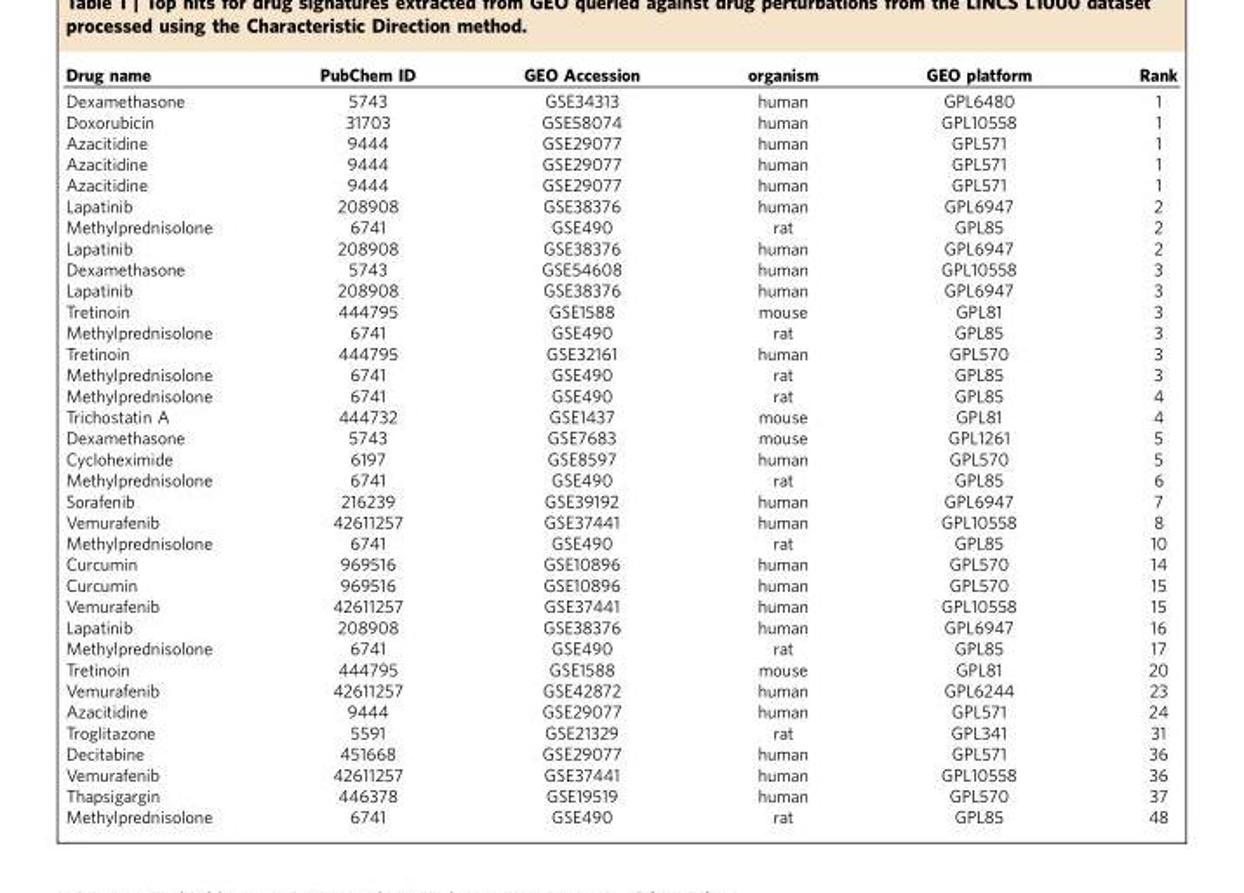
<table><thead><tr><td>Drug name</td><td>PubChem ID</td><td>GEO Accession</td><td>organism</td><td>GEO platform</td><td>Rank</td></tr></thead><tbody><tr><td>Dexamethasone</td><td>5743</td><td>GSE34313</td><td>human</td><td>GPL6480</td><td>1</td></tr><tr><td>Doxorubicin</td><td>31703</td><td>GSE58074</td><td>human</td><td>GPL10558</td><td>1</td></tr><tr><td>Azacitidine</td><td>9444</td><td>GSE29077</td><td>human</td><td>GPL571</td><td>1</td></tr><tr><td>Azacitidine</td><td>9444</td><td>GSE29077</td><td>human</td><td>GPL571</td><td>1</td></tr><tr><td>Azacitidine</td><td>9444</td><td>GSE29077</td><td>human</td><td>GPL571</td><td>1</td></tr><tr><td>Lapatinib</td><td>208908</td><td>GSE38376</td><td>human</td><td>GPL6947</td><td>2</td></tr><tr><td>Methylprednisolone</td><td>6741</td><td>GSE490</td><td>rat</td><td>GPL85</td><td>2</td></tr><tr><td>Lapatinib</td><td>208908</td><td>GSE38376</td><td>human</td><td>GPL6947</td><td>2</td></tr><tr><td>Dexamethasone</td><td>5743</td><td>GSE54608</td><td>human</td><td>GPL10558</td><td>3</td></tr><tr><td>Lapatinib</td><td>208908</td><td>GSE38376</td><td>human</td><td>GPL6947</td><td>3</td></tr><tr><td>Tretinoin</td><td>444795</td><td>GSE1588</td><td>mouse</td><td>GPL81</td><td>3</td></tr><tr><td>Methylprednisolone</td><td>6741</td><td>GSE490</td><td>rat</td><td>GPL85</td><td>3</td></tr><tr><td>Tretinoin</td><td>444795</td><td>GSE32161</td><td>human</td><td>GPL570</td><td>3</td></tr><tr><td>Methylprednisolone</td><td>6741</td><td>GSE490</td><td>rat</td><td>GPL85</td><td>3</td></tr><tr><td>Methylprednisolone</td><td>6741</td><td>GSE490</td><td>rat</td><td>GPL85</td><td>4</td></tr><tr><td>Trichostatin A</td><td>444732</td><td>GSE1437</td><td>mouse</td><td>GPL81</td><td>4</td></tr><tr><td>Dexamethasone</td><td>5743</td><td>GSE7683</td><td>mouse</td><td>GPL1261</td><td>5</td></tr><tr><td>Cycloheximide</td><td>6197</td><td>GSE8597</td><td>human</td><td>GPL570</td><td>5</td></tr><tr><td>Methylprednisolone</td><td>6741</td><td>GSE490</td><td>rat</td><td>GPL85</td><td>6</td></tr><tr><td>Sorafenib</td><td>216239</td><td>GSE39192</td><td>human</td><td>GPL6947</td><td>7</td></tr><tr><td>Vemurafenib</td><td>42611257</td><td>GSE37441</td><td>human</td><td>GPL10558</td><td>8</td></tr><tr><td>Methylprednisolone</td><td>6741</td><td>GSE490</td><td>rat</td><td>GPL85</td><td>10</td></tr><tr><td>Curcumin</td><td>969516</td><td>GSE10896</td><td>human</td><td>GPL570</td><td>14</td></tr><tr><td>Curcumin</td><td>969516</td><td>GSE10896</td><td>human</td><td>GPL570</td><td>15</td></tr><tr><td>Vemurafenib</td><td>42611257</td><td>GSE37441</td><td>human</td><td>GPL10558</td><td>15</td></tr><tr><td>Lapatinib</td><td>208908</td><td>GSE38376</td><td>human</td><td>GPL6947</td><td>16</td></tr><tr><td>Methylprednisolone</td><td>6741</td><td>GSE490</td><td>rat</td><td>GPL85</td><td>17</td></tr><tr><td>Tretinoin</td><td>444795</td><td>GSE1588</td><td>mouse</td><td>GPL81</td><td>20</td></tr><tr><td>Vemurafenib</td><td>42611257</td><td>GSE42872</td><td>human</td><td>GPL6244</td><td>23</td></tr><tr><td>Azacitidine</td><td>9444</td><td>GSE29077</td><td>human</td><td>GPL571</td><td>24</td></tr><tr><td>Troglitazone</td><td>5591</td><td>GSE21329</td><td>rat</td><td>GPL341</td><td>31</td></tr><tr><td>Decitabine</td><td>451668</td><td>GSE29077</td><td>human</td><td>GPL571</td><td>36</td></tr><tr><td>Vemurafenib</td><td>42611257</td><td>GSE37441</td><td>human</td><td>GPL10558</td><td>36</td></tr><tr><td>Thapsigargin</td><td>446378</td><td>GSE19519</td><td>human</td><td>GPL570</td><td>37</td></tr><tr><td>Methylprednisolone</td><td>6741</td><td>GSE490</td><td>rat</td><td>GPL85</td><td>48</td></tr></tbody></table>